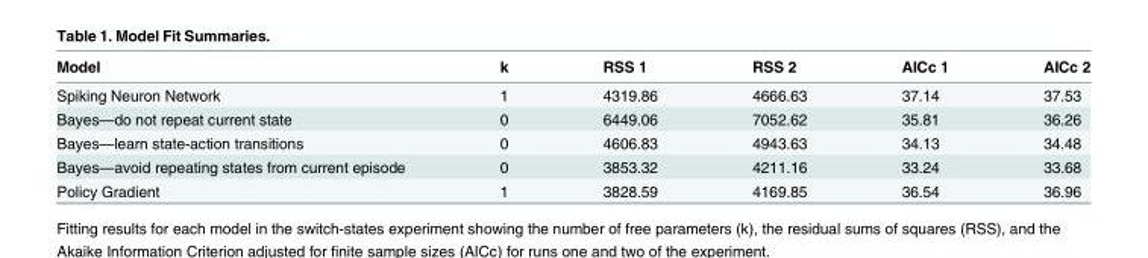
<table><thead><tr><td>Model</td><td>k</td><td>RSS 1</td><td>RSS 2</td><td>AICc 1</td><td>AICc 2</td></tr></thead><tbody><tr><td>Spiking Neuron Network</td><td>1</td><td>4319.86</td><td>4666.63</td><td>37.14</td><td>37.53</td></tr><tr><td>Bayes—do not repeat current state</td><td>0</td><td>6449.06</td><td>7052.62</td><td>35.81</td><td>36.26</td></tr><tr><td>Bayes—learn state-action transitions</td><td>0</td><td>4606.83</td><td>4943.63</td><td>34.13</td><td>34.48</td></tr><tr><td>Bayes—avoid repeating states from current episode</td><td>0</td><td>3853.32</td><td>4211.16</td><td>33.24</td><td>33.68</td></tr><tr><td>Policy Gradient</td><td>1</td><td>3828.59</td><td>4169.85</td><td>36.54</td><td>36.96</td></tr></tbody></table>